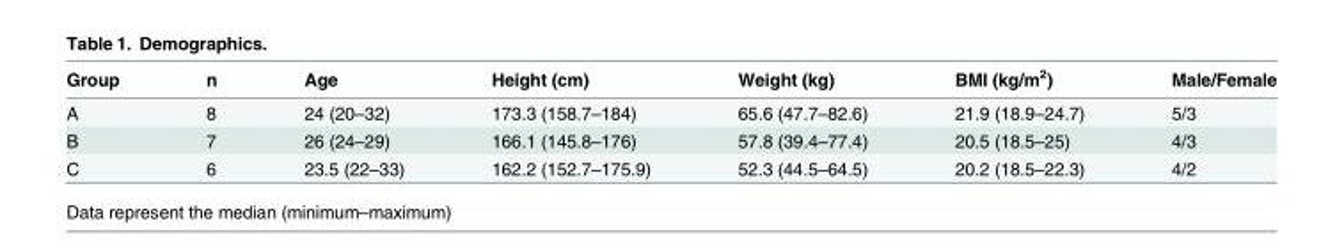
<table><thead><tr><td>Group</td><td>n</td><td>Age</td><td>Height (cm)</td><td>Weight (kg)</td><td>BMI (kg/m<sup>2</sup>)</td><td>Male/Female</td></tr></thead><tbody><tr><td>A</td><td>8</td><td>24 (20–32)</td><td>173.3 (158.7–184)</td><td>65.6 (47.7–82.6)</td><td>21.9 (18.9–24.7)</td><td>5/3</td></tr><tr><td>B</td><td>7</td><td>26 (24–29)</td><td>166.1 (145.8–176)</td><td>57.8 (39.4–77.4)</td><td>20.5 (18.5–25)</td><td>4/3</td></tr><tr><td>C</td><td>6</td><td>23.5 (22–33)</td><td>162.2 (152.7–175.9)</td><td>52.3 (44.5–64.5)</td><td>20.2 (18.5–22.3)</td><td>4/2</td></tr></tbody></table>